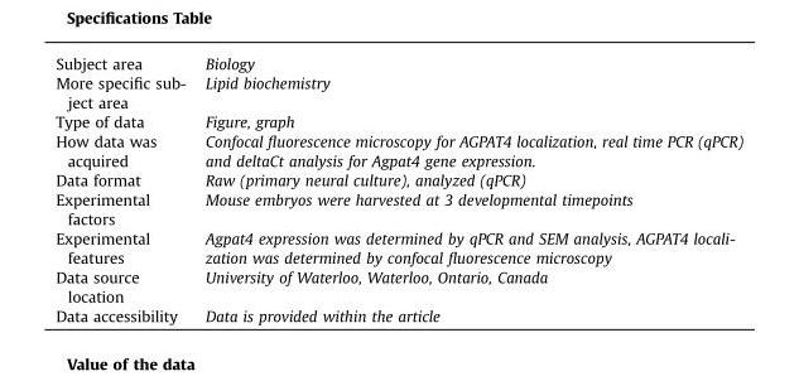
<table><tbody><tr><td>Subject area</td><td>Biology</td></tr><tr><td>More specific sub- ject area</td><td>Lipid biochemistry</td></tr><tr><td>Type of data</td><td>Figure, graph</td></tr><tr><td>How data was acquired</td><td>Confocal fluorescence microscopy for AGPAT4 localization, real time PCR (qPCR) and deltaCt analysis for Agpat4 gene expression.</td></tr><tr><td>Data format</td><td>Raw (primary neural culture), analyzed (qPCR)</td></tr><tr><td>Experimental factors</td><td>Mouse embryos were harvested at 3 developmental timepoints</td></tr><tr><td>Experimental features</td><td>Agpat4 expression was determined by qPCR and SEM analysis, AGPAT4 locali- zation was determined by confocal fluorescence microscopy</td></tr><tr><td>Data source location</td><td>University of Waterloo, Waterloo, Ontario, Canada</td></tr><tr><td>Data accessibility</td><td>Data is provided within the article</td></tr></tbody></table>